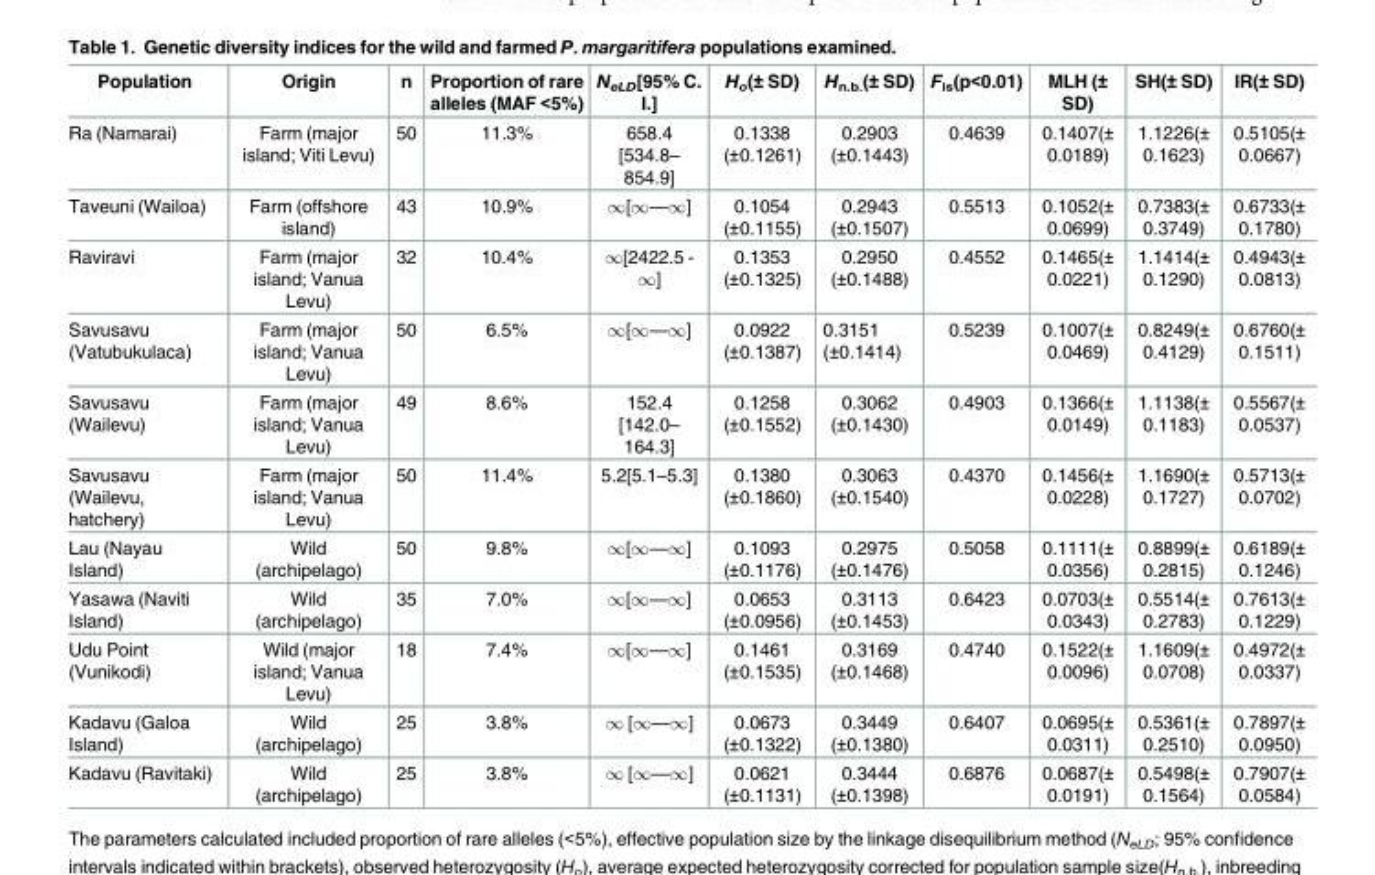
<table><thead><tr><td>Population</td><td>Origin</td><td>n</td><td>Proportion of rare alleles (MAF &lt;5%)</td><td>N<sub>eLD</sub>[95% C. I.]</td><td>H<sub>o</sub>(± SD)</td><td>H<sub>n.b.</sub>(± SD)</td><td>F<sub>is</sub>(p&lt;0.01)</td><td>MLH (± SD)</td><td>SH(± SD)</td><td>IR(± SD)</td></tr></thead><tbody><tr><td>Ra (Namarai)</td><td>Farm (major island; Viti Levu)</td><td>50</td><td>11.3%</td><td>658.4 [534.8– 854.9]</td><td>0.1338 (±0.1261)</td><td>0.2903 (±0.1443)</td><td>0.4639</td><td>0.1407(± 0.0189)</td><td>1.1226(± 0.1623)</td><td>0.5105(± 0.0667)</td></tr><tr><td>Taveuni (Wailoa)</td><td>Farm (offshore island)</td><td>43</td><td>10.9%</td><td>∞[∞—∞]</td><td>0.1054 (±0.1155)</td><td>0.2943 (±0.1507)</td><td>0.5513</td><td>0.1052(± 0.0699)</td><td>0.7383(± 0.3749)</td><td>0.6733(± 0.1780)</td></tr><tr><td>Raviravi</td><td>Farm (major island; Vanua Levu)</td><td>32</td><td>10.4%</td><td>∞[2422.5 - ∞]</td><td>0.1353 (±0.1325)</td><td>0.2950 (±0.1488)</td><td>0.4552</td><td>0.1465(± 0.0221)</td><td>1.1414(± 0.1290)</td><td>0.4943(± 0.0813)</td></tr><tr><td>Savusavu (Vatubukulaca)</td><td>Farm (major island; Vanua Levu)</td><td>50</td><td>6.5%</td><td>∞[∞—∞]</td><td>0.0922 (±0.1387)</td><td>0.3151 (±0.1414)</td><td>0.5239</td><td>0.1007(± 0.0469)</td><td>0.8249(± 0.4129)</td><td>0.6760(± 0.1511)</td></tr><tr><td>Savusavu (Wailevu)</td><td>Farm (major island; Vanua Levu)</td><td>49</td><td>8.6%</td><td>152.4 [142.0– 164.3]</td><td>0.1258 (±0.1552)</td><td>0.3062 (±0.1430)</td><td>0.4903</td><td>0.1366(± 0.0149)</td><td>1.1138(± 0.1183)</td><td>0.5567(± 0.0537)</td></tr><tr><td>Savusavu (Wailevu, hatchery)</td><td>Farm (major island; Vanua Levu)</td><td>50</td><td>11.4%</td><td>5.2[5.1–5.3]</td><td>0.1380 (±0.1860)</td><td>0.3063 (±0.1540)</td><td>0.4370</td><td>0.1456(± 0.0228)</td><td>1.1690(± 0.1727)</td><td>0.5713(± 0.0702)</td></tr><tr><td>Lau (Nayau Island)</td><td>Wild (archipelago)</td><td>50</td><td>9.8%</td><td>∞[∞—∞]</td><td>0.1093 (±0.1176)</td><td>0.2975 (±0.1476)</td><td>0.5058</td><td>0.1111(± 0.0356)</td><td>0.8899(± 0.2815)</td><td>0.6189(± 0.1246)</td></tr><tr><td>Yasawa (Naviti Island)</td><td>Wild (archipelago)</td><td>35</td><td>7.0%</td><td>∞[∞—∞]</td><td>0.0653 (±0.0956)</td><td>0.3113 (±0.1453)</td><td>0.6423</td><td>0.0703(± 0.0343)</td><td>0.5514(± 0.2783)</td><td>0.7613(± 0.1229)</td></tr><tr><td>Udu Point (Vunikodi)</td><td>Wild (major island; Vanua Levu)</td><td>18</td><td>7.4%</td><td>∞[∞—∞]</td><td>0.1461 (±0.1535)</td><td>0.3169 (±0.1468)</td><td>0.4740</td><td>0.1522(± 0.0096)</td><td>1.1609(± 0.0708)</td><td>0.4972(± 0.0337)</td></tr><tr><td>Kadavu (Galoa Island)</td><td>Wild (archipelago)</td><td>25</td><td>3.8%</td><td>∞ [∞—∞]</td><td>0.0673 (±0.1322)</td><td>0.3449 (±0.1380)</td><td>0.6407</td><td>0.0695(± 0.0311)</td><td>0.5361(± 0.2510)</td><td>0.7897(± 0.0950)</td></tr><tr><td>Kadavu (Ravitaki)</td><td>Wild (archipelago)</td><td>25</td><td>3.8%</td><td>∞ [∞—∞]</td><td>0.0621 (±0.1131)</td><td>0.3444 (±0.1398)</td><td>0.6876</td><td>0.0687(± 0.0191)</td><td>0.5498(± 0.1564)</td><td>0.7907(± 0.0584)</td></tr></tbody></table>